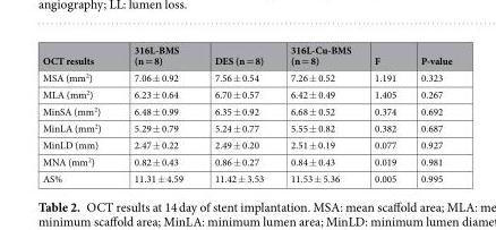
<table><thead><tr><td>OCT results</td><td>316L-BMS (n = 8)</td><td>DES (n = 8)</td><td>316L-Cu-BMS (n = 8)</td><td>F</td><td>P-value</td></tr></thead><tbody><tr><td>MSA (mm<sup>2</sup>)</td><td>7.06 ± 0.92</td><td>7.56 ± 0.54</td><td>7.26 ± 0.52</td><td>1.191</td><td>0.323</td></tr><tr><td>MLA (mm<sup>2</sup>)</td><td>6.23 ± 0.64</td><td>6.70 ± 0.57</td><td>6.42 ± 0.49</td><td>1.405</td><td>0.267</td></tr><tr><td>MinSA (mm<sup>2</sup>)</td><td>6.48 ± 0.99</td><td>6.35 ± 0.92</td><td>6.68 ± 0.52</td><td>0.374</td><td>0.692</td></tr><tr><td>MinLA (mm<sup>2</sup>)</td><td>5.29 ± 0.79</td><td>5.24 ± 0.77</td><td>5.55 ± 0.82</td><td>0.382</td><td>0.687</td></tr><tr><td>MinLD (mm)</td><td>2.47 ± 0.22</td><td>2.49 ± 0.20</td><td>2.51 ± 0.19</td><td>0.077</td><td>0.927</td></tr><tr><td>MNA (mm<sup>2</sup>)</td><td>0.82 ± 0.43</td><td>0.86 ± 0.27</td><td>0.84 ± 0.43</td><td>0.019</td><td>0.981</td></tr><tr><td>AS%</td><td>11.31 ± 4.59</td><td>11.42 ± 3.53</td><td>11.53 ± 5.36</td><td>0.005</td><td>0.995</td></tr></tbody></table>